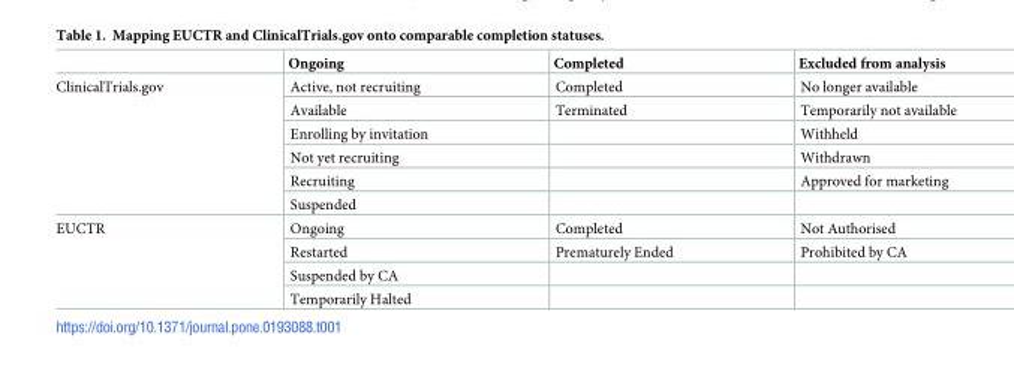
<table><thead><tr><td></td><td>Ongoing</td><td>Completed</td><td>Excluded from analysis</td></tr></thead><tbody><tr><td rowspan="6">ClinicalTrials.gov</td><td>Active, not recruiting</td><td>Completed</td><td>No longer available</td></tr><tr><td>Available</td><td>Terminated</td><td>Temporarily not available</td></tr><tr><td>Enrolling by invitation</td><td></td><td>Withheld</td></tr><tr><td>Not yet recruiting</td><td></td><td>Withdrawn</td></tr><tr><td>Recruiting</td><td></td><td>Approved for marketing</td></tr><tr><td>Suspended</td><td></td><td></td></tr><tr><td rowspan="4">EUCTR</td><td>Ongoing</td><td>Completed</td><td>Not Authorised</td></tr><tr><td>Restarted</td><td>Prematurely Ended</td><td>Prohibited by CA</td></tr><tr><td>Suspended by CA</td><td></td><td></td></tr><tr><td>Temporarily Halted</td><td></td><td></td></tr></tbody></table>